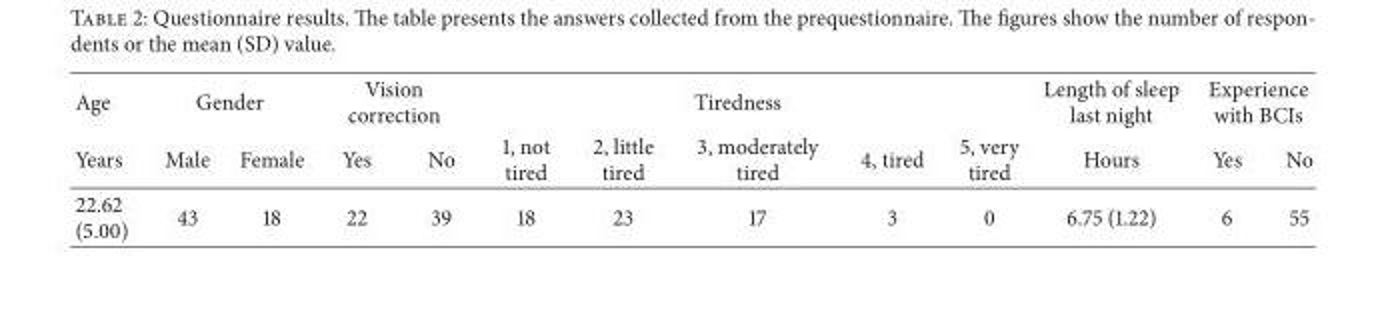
<table><thead><tr><td rowspan="2">Age Years</td><td colspan="2">Gender</td><td colspan="2">Vision correction</td><td colspan="5">Tiredness</td><td rowspan="2">Length of sleep last night Hours</td><td colspan="2">Experience with BCIs</td></tr><tr><td>Male</td><td>Female</td><td>Yes</td><td>No</td><td>1, not tired</td><td>2, little tired</td><td>3, moderately tired</td><td>4, tired</td><td>5, very tired</td><td>Yes</td><td>No</td></tr></thead><tbody><tr><td>22.62 (5.00)</td><td>43</td><td>18</td><td>22</td><td>39</td><td>18</td><td>23</td><td>17</td><td>3</td><td>0</td><td>6.75 (1.22)</td><td>6</td><td>55</td></tr></tbody></table>